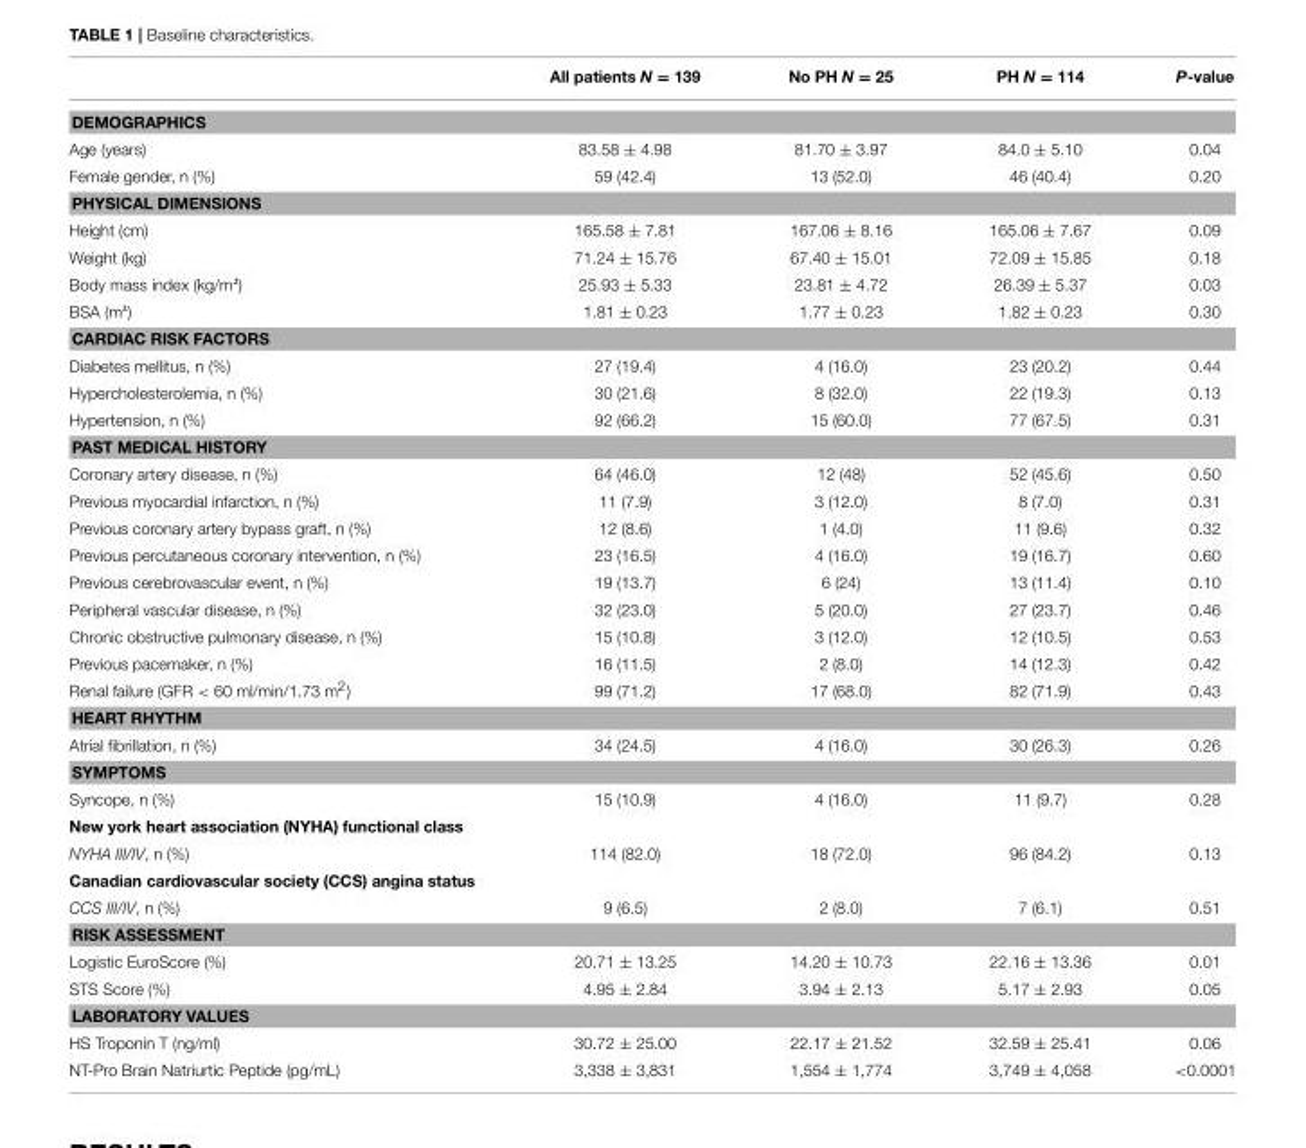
<table><thead><tr><td></td><td>All patients N = 139</td><td>No PH N = 25</td><td>PH N = 114</td><td>P-value</td></tr></thead><tbody><tr><td colspan="5">DEMOGRAPHICS</td></tr><tr><td>Age (years)</td><td>83.58 ± 4.98</td><td>81.70 ± 3.97</td><td>84.0 ± 5.10</td><td>0.04</td></tr><tr><td>Female gender, n (%)</td><td>59 (42.4)</td><td>13 (52.0)</td><td>46 (40.4)</td><td>0.20</td></tr><tr><td colspan="5">PHYSICAL DIMENSIONS</td></tr><tr><td>Height (cm)</td><td>165.58 ± 7.81</td><td>167.06 ± 8.16</td><td>165.06 ± 7.67</td><td>0.09</td></tr><tr><td>Weight (kg)</td><td>71.24 ± 15.76</td><td>67.40 ± 15.01</td><td>72.09 ± 15.85</td><td>0.18</td></tr><tr><td>Body mass index (kg/m²)</td><td>25.93 ± 5.33</td><td>23.81 ± 4.72</td><td>26.39 ± 5.37</td><td>0.03</td></tr><tr><td>BSA (m²)</td><td>1.81 ± 0.23</td><td>1.77 ± 0.23</td><td>1.82 ± 0.23</td><td>0.30</td></tr><tr><td colspan="5">CARDIAC RISK FACTORS</td></tr><tr><td>Diabetes mellitus, n (%)</td><td>27 (19.4)</td><td>4 (16.0)</td><td>23 (20.2)</td><td>0.44</td></tr><tr><td>Hypercholesterolemia, n (%)</td><td>30 (21.6)</td><td>8 (32.0)</td><td>22 (19.3)</td><td>0.13</td></tr><tr><td>Hypertension, n (%)</td><td>92 (66.2)</td><td>15 (60.0)</td><td>77 (67.5)</td><td>0.31</td></tr><tr><td colspan="5">PAST MEDICAL HISTORY</td></tr><tr><td>Coronary artery disease, n (%)</td><td>64 (46.0)</td><td>12 (48)</td><td>52 (45.6)</td><td>0.50</td></tr><tr><td>Previous myocardial infarction, n (%)</td><td>11 (7.9)</td><td>3 (12.0)</td><td>8 (7.0)</td><td>0.31</td></tr><tr><td>Previous coronary artery bypass graft, n (%)</td><td>12 (8.6)</td><td>1 (4.0)</td><td>11 (9.6)</td><td>0.32</td></tr><tr><td>Previous percutaneous coronary intervention, n (%)</td><td>23 (16.5)</td><td>4 (16.0)</td><td>19 (16.7)</td><td>0.60</td></tr><tr><td>Previous cerebrovascular event, n (%)</td><td>19 (13.7)</td><td>6 (24)</td><td>13 (11.4)</td><td>0.10</td></tr><tr><td>Peripheral vascular disease, n (%)</td><td>32 (23.0)</td><td>5 (20.0)</td><td>27 (23.7)</td><td>0.46</td></tr><tr><td>Chronic obstructive pulmonary disease, n (%)</td><td>15 (10.8)</td><td>3 (12.0)</td><td>12 (10.5)</td><td>0.53</td></tr><tr><td>Previous pacemaker, n (%)</td><td>16 (11.5)</td><td>2 (8.0)</td><td>14 (12.3)</td><td>0.42</td></tr><tr><td>Renal failure (GFR &lt; 60 ml/min/1.73 m<sup>2</sup>)</td><td>99 (71.2)</td><td>17 (68.0)</td><td>82 (71.9)</td><td>0.43</td></tr><tr><td colspan="5">HEART RHYTHM</td></tr><tr><td>Atrial fibrillation, n (%)</td><td>34 (24.5)</td><td>4 (16.0)</td><td>30 (26.3)</td><td>0.26</td></tr><tr><td colspan="5">SYMPTOMS</td></tr><tr><td>Syncope, n (%)</td><td>15 (10.9)</td><td>4 (16.0)</td><td>11 (9.7)</td><td>0.28</td></tr><tr><td colspan="5">New york heart association (NYHA) functional class</td></tr><tr><td>NYHA III/IV, n (%)</td><td>114 (82.0)</td><td>18 (72.0)</td><td>96 (84.2)</td><td>0.13</td></tr><tr><td colspan="5">Canadian cardiovascular society (CCS) angina status</td></tr><tr><td>CCS III/IV, n (%)</td><td>9 (6.5)</td><td>2 (8.0)</td><td>7 (6.1)</td><td>0.51</td></tr><tr><td colspan="5">RISK ASSESSMENT</td></tr><tr><td>Logistic EuroScore (%)</td><td>20.71 ± 13.25</td><td>14.20 ± 10.73</td><td>22.16 ± 13.36</td><td>0.01</td></tr><tr><td>STS Score (%)</td><td>4.95 ± 2.84</td><td>3.94 ± 2.13</td><td>5.17 ± 2.93</td><td>0.05</td></tr><tr><td colspan="5">LABORATORY VALUES</td></tr><tr><td>HS Troponin T (ng/ml)</td><td>30.72 ± 25.00</td><td>22.17 ± 21.52</td><td>32.59 ± 25.41</td><td>0.06</td></tr><tr><td>NT-Pro Brain Natriurtic Peptide (pg/mL)</td><td>3,338 ± 3,831</td><td>1,554 ± 1,774</td><td>3,749 ± 4,058</td><td>&lt;0.0001</td></tr></tbody></table>